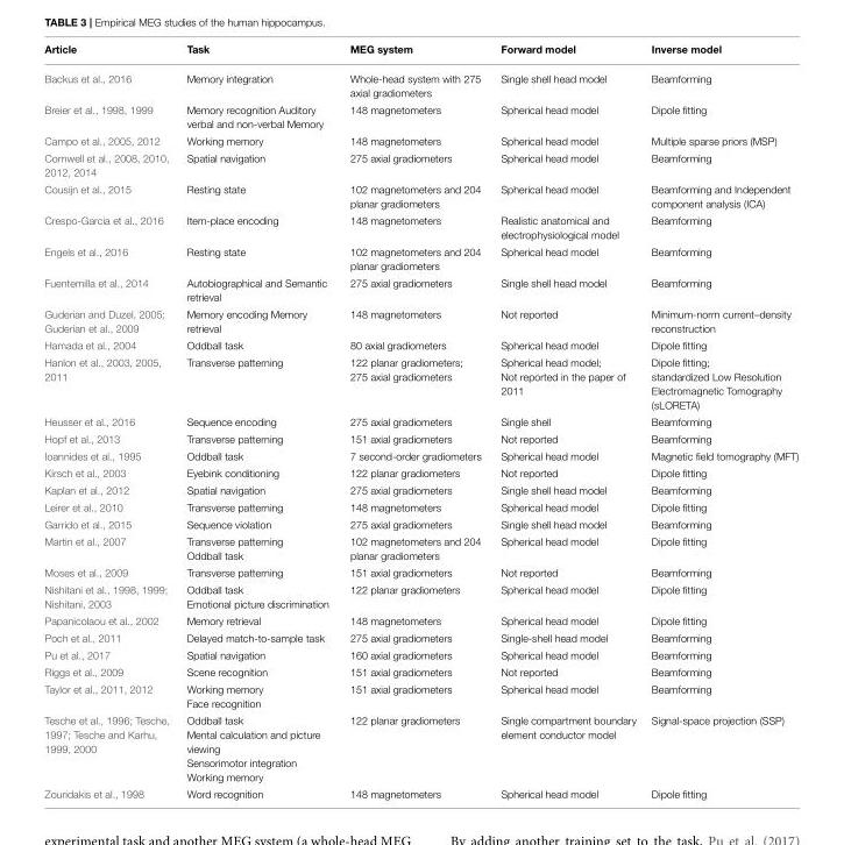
<table><thead><tr><td>Article</td><td>Task</td><td>MEG system</td><td>Forward model</td><td>Inverse model</td></tr></thead><tbody><tr><td>Backus et al., 2016</td><td>Memory integration</td><td>Whole-head system with 275 axial gradiometers</td><td>Single shell head model</td><td>Beamforming</td></tr><tr><td>Breier et al., 1998, 1999</td><td>Memory recognition Auditory verbal and non-verbal Memory</td><td>148 magnetometers</td><td>Spherical head model</td><td>Dipole fitting</td></tr><tr><td>Campo et al., 2005, 2012</td><td>Working memory</td><td>148 magnetometers</td><td>Spherical head model</td><td>Multiple sparse priors (MSP)</td></tr><tr><td>Cornwell et al., 2008, 2010, 2012, 2014</td><td>Spatial navigation</td><td>275 axial gradiometers</td><td>Spherical head model</td><td>Beamforming</td></tr><tr><td>Cousijn et al., 2015</td><td>Resting state</td><td>102 magnetometers and 204 planar gradiometers</td><td>Spherical head model</td><td>Beamforming and Independent component analysis (ICA)</td></tr><tr><td>Crespo-Garcia et al., 2016</td><td>Item-place encoding</td><td>148 magnetometers</td><td>Realistic anatomical and electrophysiological model</td><td>Beamforming</td></tr><tr><td>Engels et al., 2016</td><td>Resting state</td><td>102 magnetometers and 204 planar gradiometers</td><td>Spherical head model</td><td>Beamforming</td></tr><tr><td>Fuentemilla et al., 2014</td><td>Autobiographical and Semantic retrieval</td><td>275 axial gradiometers</td><td>Single shell head model</td><td>Beamforming</td></tr><tr><td>Guderian and Duzel, 2005; Guderian et al., 2009</td><td>Memory encoding Memory retrieval</td><td>148 magnetometers</td><td>Not reported</td><td>Minimum-norm current–density reconstruction</td></tr><tr><td>Hamada et al., 2004</td><td>Oddball task</td><td>80 axial gradiometers</td><td>Spherical head model</td><td>Dipole fitting</td></tr><tr><td>Hanlon et al., 2003, 2005, 2011</td><td>Transverse patterning</td><td>122 planar gradiometers; 275 axial gradiometers</td><td>Spherical head model; Not reported in the paper of 2011</td><td>Dipole fitting; standardized Low Resolution Electromagnetic Tomography (sLORETA)</td></tr><tr><td>Heusser et al., 2016</td><td>Sequence encoding</td><td>275 axial gradiometers</td><td>Single shell</td><td>Beamforming</td></tr><tr><td>Hopf et al., 2013</td><td>Transverse patterning</td><td>151 axial gradiometers</td><td>Not reported</td><td>Beamforming</td></tr><tr><td>Ioannides et al., 1995</td><td>Oddball task</td><td>7 second-order gradiometers</td><td>Spherical head model</td><td>Magnetic field tomography (MFT)</td></tr><tr><td>Kirsch et al., 2003</td><td>Eyebink conditioning</td><td>122 planar gradiometers</td><td>Not reported</td><td>Dipole fitting</td></tr><tr><td>Kaplan et al., 2012</td><td>Spatial navigation</td><td>275 axial gradiometers</td><td>Single shell head model</td><td>Beamforming</td></tr><tr><td>Leirer et al., 2010</td><td>Transverse patterning</td><td>148 magnetometers</td><td>Spherical head model</td><td>Dipole fitting</td></tr><tr><td>Garrido et al., 2015</td><td>Sequence violation</td><td>275 axial gradiometers</td><td>Single shell head model</td><td>Beamforming</td></tr><tr><td>Martin et al., 2007</td><td>Transverse patterning Oddball task</td><td>102 magnetometers and 204 planar gradiometers</td><td>Spherical head model</td><td>Dipole fitting</td></tr><tr><td>Moses et al., 2009</td><td>Transverse patterning</td><td>151 axial gradiometers</td><td>Not reported</td><td>Beamforming</td></tr><tr><td>Nishitani et al., 1998, 1999; Nishitani, 2003</td><td>Oddball task Emotional picture discrimination</td><td>122 planar gradiometers</td><td>Spherical head model</td><td>Dipole fitting</td></tr><tr><td>Papanicolaou et al., 2002</td><td>Memory retrieval</td><td>148 magnetometers</td><td>Spherical head model</td><td>Dipole fitting</td></tr><tr><td>Poch et al., 2011</td><td>Delayed match-to-sample task</td><td>275 axial gradiometers</td><td>Single-shell head model</td><td>Beamforming</td></tr><tr><td>Pu et al., 2017</td><td>Spatial navigation</td><td>160 axial gradiometers</td><td>Spherical head model</td><td>Beamforming</td></tr><tr><td>Riggs et al., 2009</td><td>Scene recognition</td><td>151 axial gradiometers</td><td>Not reported</td><td>Beamforming</td></tr><tr><td>Taylor et al., 2011, 2012</td><td>Working memory Face recognition</td><td>151 axial gradiometers</td><td>Spherical head model</td><td>Beamforming</td></tr><tr><td>Tesche et al., 1996; Tesche, 1997; Tesche and Karhu, 1999, 2000</td><td>Oddball task Mental calculation and picture viewing Sensorimotor integration Working memory</td><td>122 planar gradiometers</td><td>Single compartment boundary element conductor model</td><td>Signal-space projection (SSP)</td></tr><tr><td>Zouridakis et al., 1998</td><td>Word recognition</td><td>148 magnetometers</td><td>Spherical head model</td><td>Dipole fitting</td></tr></tbody></table>